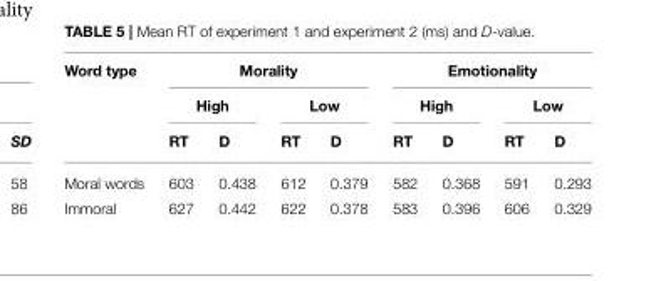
<table><thead><tr><td rowspan="3">Word type</td><td colspan="4">Morality</td><td colspan="4">Emotionality</td></tr><tr><td colspan="2">High</td><td colspan="2">Low</td><td colspan="2">High</td><td colspan="2">Low</td></tr><tr><td>RT</td><td>D</td><td>RT</td><td>D</td><td>RT</td><td>D</td><td>RT</td><td>D</td></tr></thead><tbody><tr><td>Moral words</td><td>603</td><td>0.438</td><td>612</td><td>0.379</td><td>582</td><td>0.368</td><td>591</td><td>0.293</td></tr><tr><td>Immoral</td><td>627</td><td>0.442</td><td>622</td><td>0.378</td><td>583</td><td>0.396</td><td>606</td><td>0.329</td></tr></tbody></table>